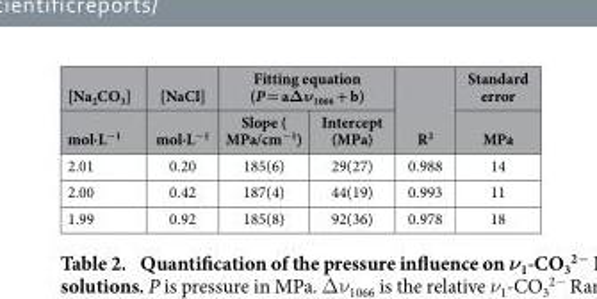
<table><thead><tr><td rowspan="2">[Na<sub>2</sub>CO<sub>3</sub>] mol·L<sup>−1</sup></td><td rowspan="2">[NaCl] mol·L<sup>−1</sup></td><td colspan="2">Fitting equation (P = aΔν<sub>1066</sub> + b)</td><td rowspan="2">R<sup>2</sup></td><td rowspan="2">Standard error MPa</td></tr><tr><td>Slope ( MPa/cm<sup>−1</sup>)</td><td>Intercept (MPa)</td></tr></thead><tbody><tr><td>2.01</td><td>0.20</td><td>185(6)</td><td>29(27)</td><td>0.988</td><td>14</td></tr><tr><td>2.00</td><td>0.42</td><td>187(4)</td><td>44(19)</td><td>0.993</td><td>11</td></tr><tr><td>1.99</td><td>0.92</td><td>185(8)</td><td>92(36)</td><td>0.978</td><td>18</td></tr></tbody></table>